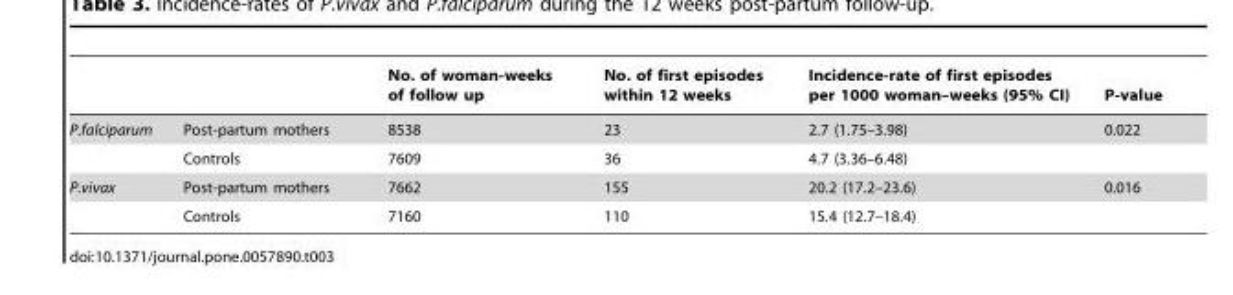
<table><thead><tr><td></td><td></td><td>No. of woman-weeks of follow up</td><td>No. of first episodes within 12 weeks</td><td>Incidence-rate of first episodes per 1000 woman–weeks (95% CI)</td><td>P-value</td></tr></thead><tbody><tr><td rowspan="2">P.falciparum</td><td>Post-partum mothers</td><td>8538</td><td>23</td><td>2.7 (1.75–3.98)</td><td>0.022</td></tr><tr><td>Controls</td><td>7609</td><td>36</td><td>4.7 (3.36–6.48)</td><td></td></tr><tr><td rowspan="2">P.vivax</td><td>Post-partum mothers</td><td>7662</td><td>155</td><td>20.2 (17.2–23.6)</td><td>0.016</td></tr><tr><td>Controls</td><td>7160</td><td>110</td><td>15.4 (12.7–18.4)</td><td></td></tr></tbody></table>